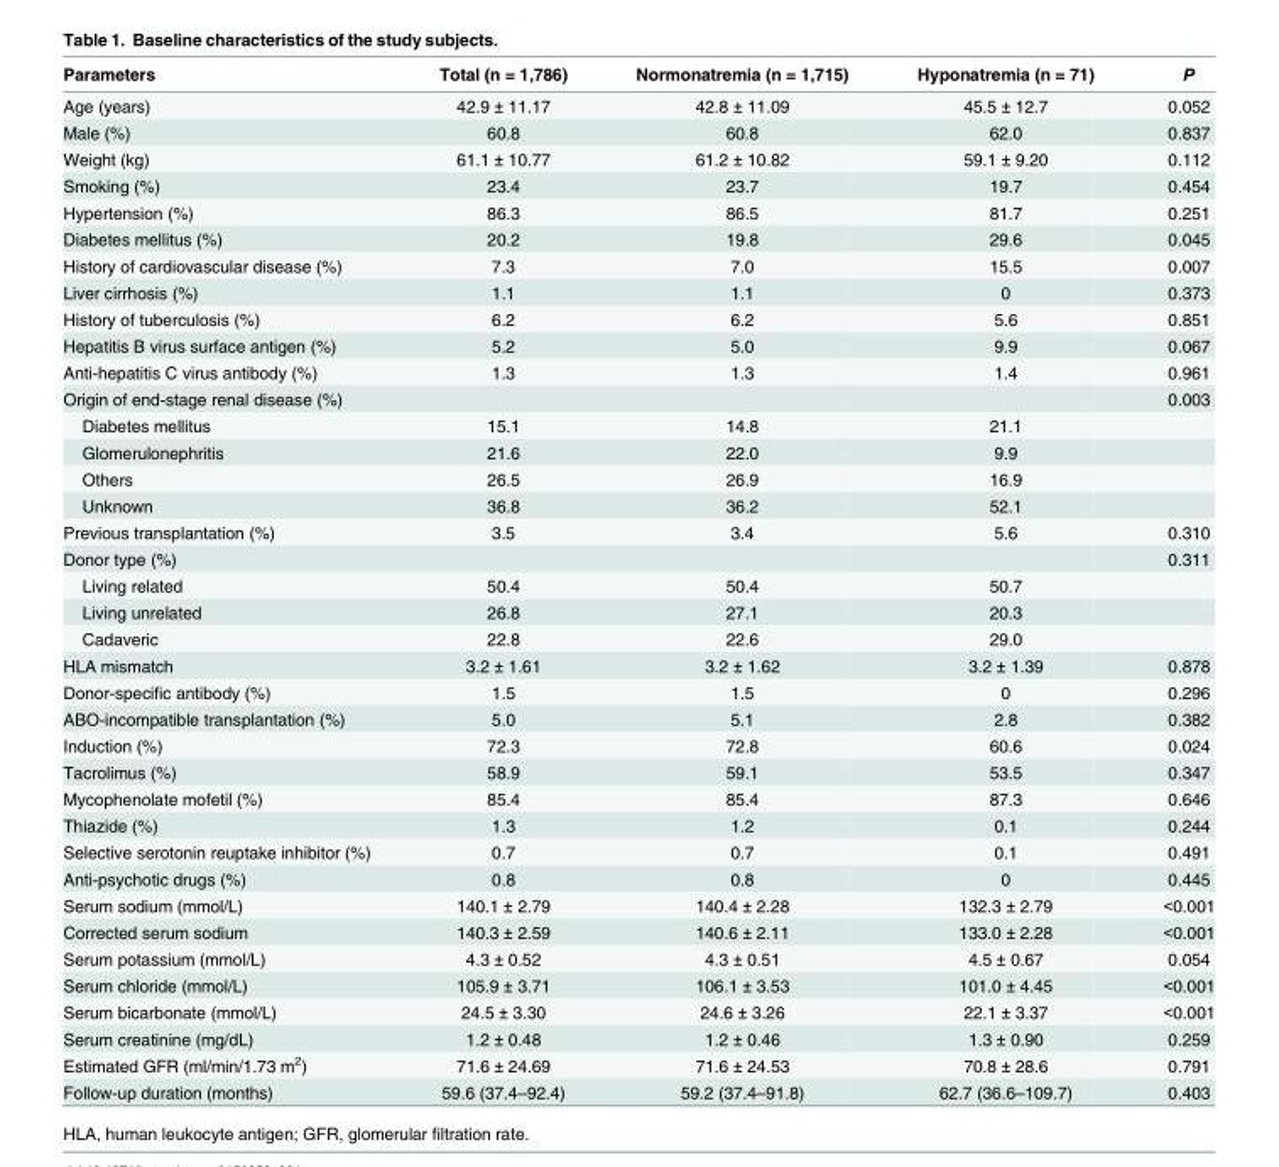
<table><thead><tr><td>Parameters</td><td>Total (n = 1,786)</td><td>Normonatremia (n = 1,715)</td><td>Hyponatremia (n = 71)</td><td>P</td></tr></thead><tbody><tr><td>Age (years)</td><td>42.9 ± 11.17</td><td>42.8 ± 11.09</td><td>45.5 ± 12.7</td><td>0.052</td></tr><tr><td>Male (%)</td><td>60.8</td><td>60.8</td><td>62.0</td><td>0.837</td></tr><tr><td>Weight (kg)</td><td>61.1 ± 10.77</td><td>61.2 ± 10.82</td><td>59.1 ± 9.20</td><td>0.112</td></tr><tr><td>Smoking (%)</td><td>23.4</td><td>23.7</td><td>19.7</td><td>0.454</td></tr><tr><td>Hypertension (%)</td><td>86.3</td><td>86.5</td><td>81.7</td><td>0.251</td></tr><tr><td>Diabetes mellitus (%)</td><td>20.2</td><td>19.8</td><td>29.6</td><td>0.045</td></tr><tr><td>History of cardiovascular disease (%)</td><td>7.3</td><td>7.0</td><td>15.5</td><td>0.007</td></tr><tr><td>Liver cirrhosis (%)</td><td>1.1</td><td>1.1</td><td>0</td><td>0.373</td></tr><tr><td>History of tuberculosis (%)</td><td>6.2</td><td>6.2</td><td>5.6</td><td>0.851</td></tr><tr><td>Hepatitis B virus surface antigen (%)</td><td>5.2</td><td>5.0</td><td>9.9</td><td>0.067</td></tr><tr><td>Anti-hepatitis C virus antibody (%)</td><td>1.3</td><td>1.3</td><td>1.4</td><td>0.961</td></tr><tr><td>Origin of end-stage renal disease (%)</td><td></td><td></td><td></td><td>0.003</td></tr><tr><td>Diabetes mellitus</td><td>15.1</td><td>14.8</td><td>21.1</td><td></td></tr><tr><td>Glomerulonephritis</td><td>21.6</td><td>22.0</td><td>9.9</td><td></td></tr><tr><td>Others</td><td>26.5</td><td>26.9</td><td>16.9</td><td></td></tr><tr><td>Unknown</td><td>36.8</td><td>36.2</td><td>52.1</td><td></td></tr><tr><td>Previous transplantation (%)</td><td>3.5</td><td>3.4</td><td>5.6</td><td>0.310</td></tr><tr><td>Donor type (%)</td><td></td><td></td><td></td><td>0.311</td></tr><tr><td>Living related</td><td>50.4</td><td>50.4</td><td>50.7</td><td></td></tr><tr><td>Living unrelated</td><td>26.8</td><td>27.1</td><td>20.3</td><td></td></tr><tr><td>Cadaveric</td><td>22.8</td><td>22.6</td><td>29.0</td><td></td></tr><tr><td>HLA mismatch</td><td>3.2 ± 1.61</td><td>3.2 ± 1.62</td><td>3.2 ± 1.39</td><td>0.878</td></tr><tr><td>Donor-specific antibody (%)</td><td>1.5</td><td>1.5</td><td>0</td><td>0.296</td></tr><tr><td>ABO-incompatible transplantation (%)</td><td>5.0</td><td>5.1</td><td>2.8</td><td>0.382</td></tr><tr><td>Induction (%)</td><td>72.3</td><td>72.8</td><td>60.6</td><td>0.024</td></tr><tr><td>Tacrolimus (%)</td><td>58.9</td><td>59.1</td><td>53.5</td><td>0.347</td></tr><tr><td>Mycophenolate mofetil (%)</td><td>85.4</td><td>85.4</td><td>87.3</td><td>0.646</td></tr><tr><td>Thiazide (%)</td><td>1.3</td><td>1.2</td><td>0.1</td><td>0.244</td></tr><tr><td>Selective serotonin reuptake inhibitor (%)</td><td>0.7</td><td>0.7</td><td>0.1</td><td>0.491</td></tr><tr><td>Anti-psychotic drugs (%)</td><td>0.8</td><td>0.8</td><td>0</td><td>0.445</td></tr><tr><td>Serum sodium (mmol/L)</td><td>140.1 ± 2.79</td><td>140.4 ± 2.28</td><td>132.3 ± 2.79</td><td>&lt;0.001</td></tr><tr><td>Corrected serum sodium</td><td>140.3 ± 2.59</td><td>140.6 ± 2.11</td><td>133.0 ± 2.28</td><td>&lt;0.001</td></tr><tr><td>Serum potassium (mmol/L)</td><td>4.3 ± 0.52</td><td>4.3 ± 0.51</td><td>4.5 ± 0.67</td><td>0.054</td></tr><tr><td>Serum chloride (mmol/L)</td><td>105.9 ± 3.71</td><td>106.1 ± 3.53</td><td>101.0 ± 4.45</td><td>&lt;0.001</td></tr><tr><td>Serum bicarbonate (mmol/L)</td><td>24.5 ± 3.30</td><td>24.6 ± 3.26</td><td>22.1 ± 3.37</td><td>&lt;0.001</td></tr><tr><td>Serum creatinine (mg/dL)</td><td>1.2 ± 0.48</td><td>1.2 ± 0.46</td><td>1.3 ± 0.90</td><td>0.259</td></tr><tr><td>Estimated GFR (ml/min/1.73 m<sup>2</sup>)</td><td>71.6 ± 24.69</td><td>71.6 ± 24.53</td><td>70.8 ± 28.6</td><td>0.791</td></tr><tr><td>Follow-up duration (months)</td><td>59.6 (37.4–92.4)</td><td>59.2 (37.4–91.8)</td><td>62.7 (36.6–109.7)</td><td>0.403</td></tr></tbody></table>